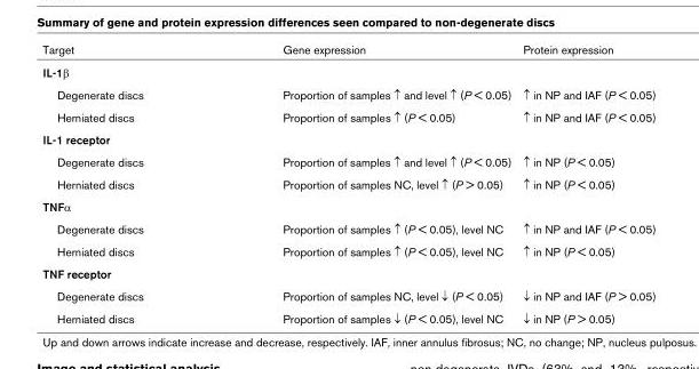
<table><thead><tr><td>Target</td><td>Gene expression</td><td>Protein expression</td></tr></thead><tbody><tr><td colspan="3">IL-1β</td></tr><tr><td>Degenerate discs</td><td>Proportion of samples ↑ and level ↑ (P &lt; 0.05)</td><td>↑ in NP and IAF (P &lt; 0.05)</td></tr><tr><td>Herniated discs</td><td>Proportion of samples ↑ (P &lt; 0.05)</td><td>↑ in NP and IAF (P &lt; 0.05)</td></tr><tr><td colspan="3">IL-1 receptor</td></tr><tr><td>Degenerate discs</td><td>Proportion of samples ↑ and level ↑ (P &lt; 0.05)</td><td>↑ in NP (P &lt; 0.05)</td></tr><tr><td>Herniated discs</td><td>Proportion of samples NC, level ↑ (P &gt; 0.05)</td><td>↑ in NP (P &lt; 0.05)</td></tr><tr><td colspan="3">TNFα</td></tr><tr><td>Degenerate discs</td><td>Proportion of samples ↑ (P &lt; 0.05), level NC</td><td>↑ in NP and IAF (P &lt; 0.05)</td></tr><tr><td>Herniated discs</td><td>Proportion of samples ↑ (P &lt; 0.05), level NC</td><td>↑ in NP (P &lt; 0.05)</td></tr><tr><td colspan="3">TNF receptor</td></tr><tr><td>Degenerate discs</td><td>Proportion of samples NC, level ↓ (P &lt; 0.05)</td><td>↓ in NP and IAF (P &gt; 0.05)</td></tr><tr><td>Herniated discs</td><td>Proportion of samples ↓ (P &lt; 0.05), level NC</td><td>↓ in NP (P &gt; 0.05)</td></tr></tbody></table>